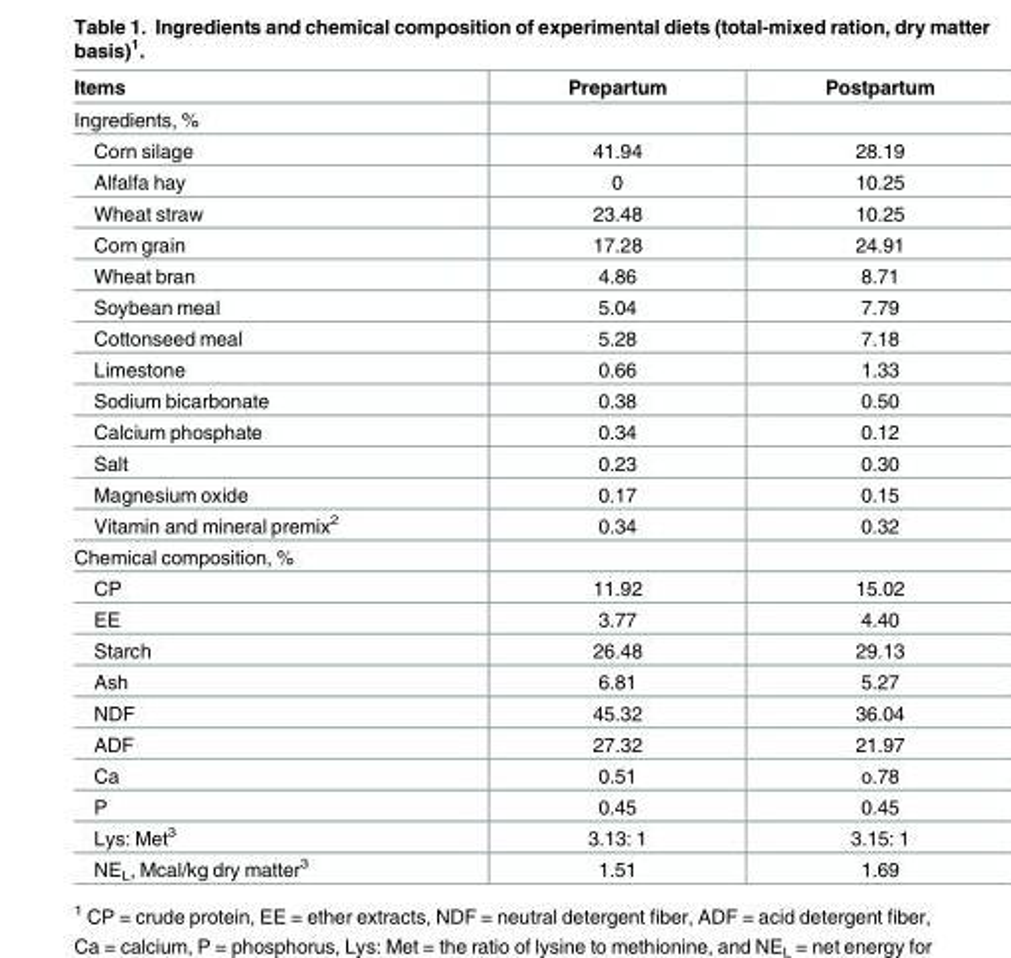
<table><thead><tr><td>Items</td><td>Prepartum</td><td>Postpartum</td></tr></thead><tbody><tr><td colspan="3">Ingredients, %</td></tr><tr><td>Corn silage</td><td>41.94</td><td>28.19</td></tr><tr><td>Alfalfa hay</td><td>0</td><td>10.25</td></tr><tr><td>Wheat straw</td><td>23.48</td><td>10.25</td></tr><tr><td>Corn grain</td><td>17.28</td><td>24.91</td></tr><tr><td>Wheat bran</td><td>4.86</td><td>8.71</td></tr><tr><td>Soybean meal</td><td>5.04</td><td>7.79</td></tr><tr><td>Cottonseed meal</td><td>5.28</td><td>7.18</td></tr><tr><td>Limestone</td><td>0.66</td><td>1.33</td></tr><tr><td>Sodium bicarbonate</td><td>0.38</td><td>0.50</td></tr><tr><td>Calcium phosphate</td><td>0.34</td><td>0.12</td></tr><tr><td>Salt</td><td>0.23</td><td>0.30</td></tr><tr><td>Magnesium oxide</td><td>0.17</td><td>0.15</td></tr><tr><td>Vitamin and mineral premix<sup>2</sup></td><td>0.34</td><td>0.32</td></tr><tr><td colspan="3">Chemical composition, %</td></tr><tr><td>CP</td><td>11.92</td><td>15.02</td></tr><tr><td>EE</td><td>3.77</td><td>4.40</td></tr><tr><td>Starch</td><td>26.48</td><td>29.13</td></tr><tr><td>Ash</td><td>6.81</td><td>5.27</td></tr><tr><td>NDF</td><td>45.32</td><td>36.04</td></tr><tr><td>ADF</td><td>27.32</td><td>21.97</td></tr><tr><td>Ca</td><td>0.51</td><td>o.78</td></tr><tr><td>P</td><td>0.45</td><td>0.45</td></tr><tr><td>Lys: Met<sup>3</sup></td><td>3.13: 1</td><td>3.15: 1</td></tr><tr><td>NE<sub>L</sub>, Mcal/kg dry matter<sup>3</sup></td><td>1.51</td><td>1.69</td></tr></tbody></table>